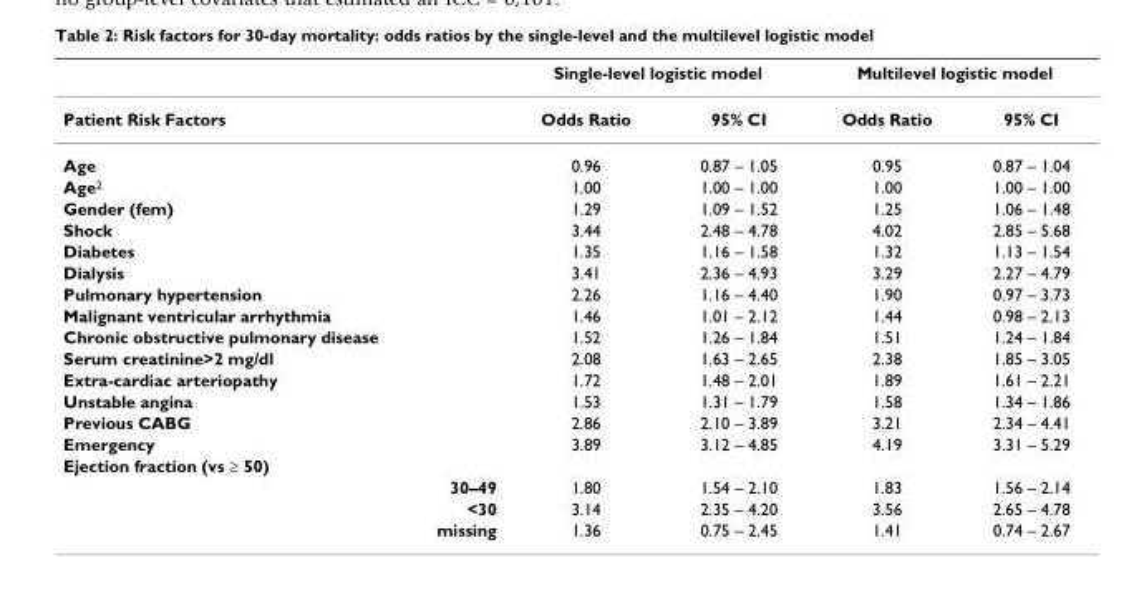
<table><thead><tr><td rowspan="2">Patient Risk Factors</td><td colspan="2">Single-level logistic model</td><td colspan="2">Multilevel logistic model</td></tr><tr><td>Odds Ratio</td><td>95% CI</td><td>Odds Ratio</td><td>95% CI</td></tr></thead><tbody><tr><td>Age</td><td>0.96</td><td>0.87 – 1.05</td><td>0.95</td><td>0.87 – 1.04</td></tr><tr><td>Age<sup>2</sup></td><td>1.00</td><td>1.00 – 1.00</td><td>1.00</td><td>1.00 – 1.00</td></tr><tr><td>Gender (fem)</td><td>1.29</td><td>1.09 – 1.52</td><td>1.25</td><td>1.06 – 1.48</td></tr><tr><td>Shock</td><td>3.44</td><td>2.48 – 4.78</td><td>4.02</td><td>2.85 – 5.68</td></tr><tr><td>Diabetes</td><td>1.35</td><td>1.16 – 1.58</td><td>1.32</td><td>1.13 – 1.54</td></tr><tr><td>Dialysis</td><td>3.41</td><td>2.36 – 4.93</td><td>3.29</td><td>2.27 – 4.79</td></tr><tr><td>Pulmonary hypertension</td><td>2.26</td><td>1.16 – 4.40</td><td>1.90</td><td>0.97 – 3.73</td></tr><tr><td>Malignant ventricular arrhythmia</td><td>1.46</td><td>1.01 – 2.12</td><td>1.44</td><td>0.98 – 2.13</td></tr><tr><td>Chronic obstructive pulmonary disease</td><td>1.52</td><td>1.26 – 1.84</td><td>1.51</td><td>1.24 – 1.84</td></tr><tr><td>Serum creatinine&gt;2 mg/dl</td><td>2.08</td><td>1.63 – 2.65</td><td>2.38</td><td>1.85 – 3.05</td></tr><tr><td>Extra-cardiac arteriopathy</td><td>1.72</td><td>1.48 – 2.01</td><td>1.89</td><td>1.61 – 2.21</td></tr><tr><td>Unstable angina</td><td>1.53</td><td>1.31 – 1.79</td><td>1.58</td><td>1.34 – 1.86</td></tr><tr><td>Previous CABG</td><td>2.86</td><td>2.10 – 3.89</td><td>3.21</td><td>2.34 – 4.41</td></tr><tr><td>Emergency</td><td>3.89</td><td>3.12 – 4.85</td><td>4.19</td><td>3.31 – 5.29</td></tr><tr><td colspan="5">Ejection fraction (vs ≥ 50)</td></tr><tr><td>30–49</td><td>1.80</td><td>1.54 – 2.10</td><td>1.83</td><td>1.56 – 2.14</td></tr><tr><td>&lt;30</td><td>3.14</td><td>2.35 – 4.20</td><td>3.56</td><td>2.65 – 4.78</td></tr><tr><td>missing</td><td>1.36</td><td>0.75 – 2.45</td><td>1.41</td><td>0.74 – 2.67</td></tr></tbody></table>